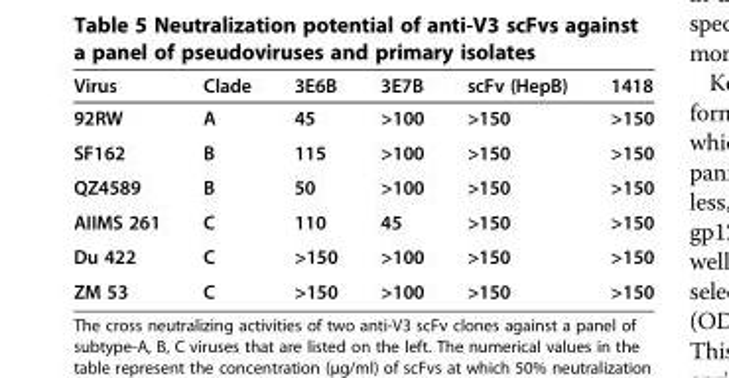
<table><thead><tr><td>Virus</td><td>Clade</td><td>3E6B</td><td>3E7B</td><td>scFv (HepB)</td><td>1418</td></tr></thead><tbody><tr><td>92RW</td><td>A</td><td>45</td><td>&gt;100</td><td>&gt;150</td><td>&gt;150</td></tr><tr><td>SF162</td><td>B</td><td>115</td><td>&gt;100</td><td>&gt;150</td><td>&gt;150</td></tr><tr><td>QZ4589</td><td>B</td><td>50</td><td>&gt;100</td><td>&gt;150</td><td>&gt;150</td></tr><tr><td>AIIMS 261</td><td>C</td><td>110</td><td>45</td><td>&gt;150</td><td>&gt;150</td></tr><tr><td>Du 422</td><td>C</td><td>&gt;150</td><td>&gt;100</td><td>&gt;150</td><td>&gt;150</td></tr><tr><td>ZM 53</td><td>C</td><td>&gt;150</td><td>&gt;100</td><td>&gt;150</td><td>&gt;150</td></tr></tbody></table>